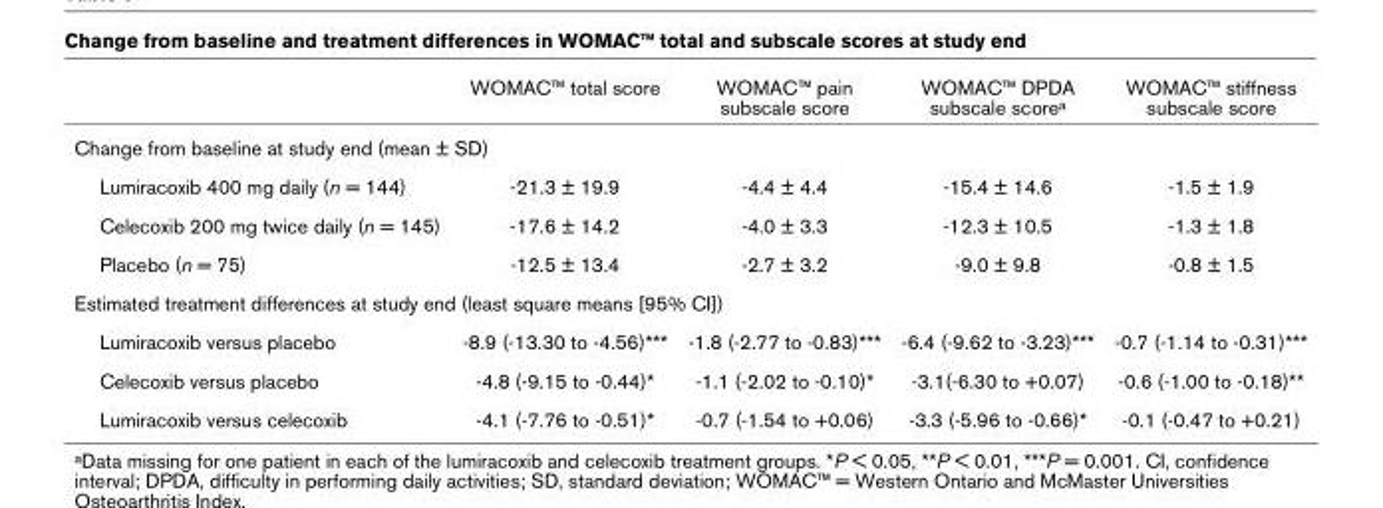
<table><thead><tr><td></td><td>WOMAC™ total score</td><td>WOMAC™ pain subscale score</td><td>WOMAC™ DPDA subscale scorea</td><td>WOMAC™ stiffness subscale score</td></tr></thead><tbody><tr><td colspan="5">Change from baseline at study end (mean ± SD)</td></tr><tr><td>Lumiracoxib 400 mg daily (n = 144)</td><td>-21.3 ± 19.9</td><td>-4.4 ± 4.4</td><td>-15.4 ± 14.6</td><td>-1.5 ± 1.9</td></tr><tr><td>Celecoxib 200 mg twice daily (n = 145)</td><td>-17.6 ± 14.2</td><td>-4.0 ± 3.3</td><td>-12.3 ± 10.5</td><td>-1.3 ± 1.8</td></tr><tr><td>Placebo (n = 75)</td><td>-12.5 ± 13.4</td><td>-2.7 ± 3.2</td><td>-9.0 ± 9.8</td><td>-0.8 ± 1.5</td></tr><tr><td colspan="5">Estimated treatment differences at study end (least square means [95% CI])</td></tr><tr><td>Lumiracoxib versus placebo</td><td>-8.9 (-13.30 to -4.56)***</td><td>-1.8 (-2.77 to -0.83)***</td><td>-6.4 (-9.62 to -3.23)***</td><td>-0.7 (-1.14 to -0.31)***</td></tr><tr><td>Celecoxib versus placebo</td><td>-4.8 (-9.15 to -0.44)*</td><td>-1.1 (-2.02 to -0.10)*</td><td>-3.1(-6.30 to +0.07)</td><td>-0.6 (-1.00 to -0.18)**</td></tr><tr><td>Lumiracoxib versus celecoxib</td><td>-4.1 (-7.76 to -0.51)*</td><td>-0.7 (-1.54 to +0.06)</td><td>-3.3 (-5.96 to -0.66)*</td><td>-0.1 (-0.47 to +0.21)</td></tr></tbody></table>